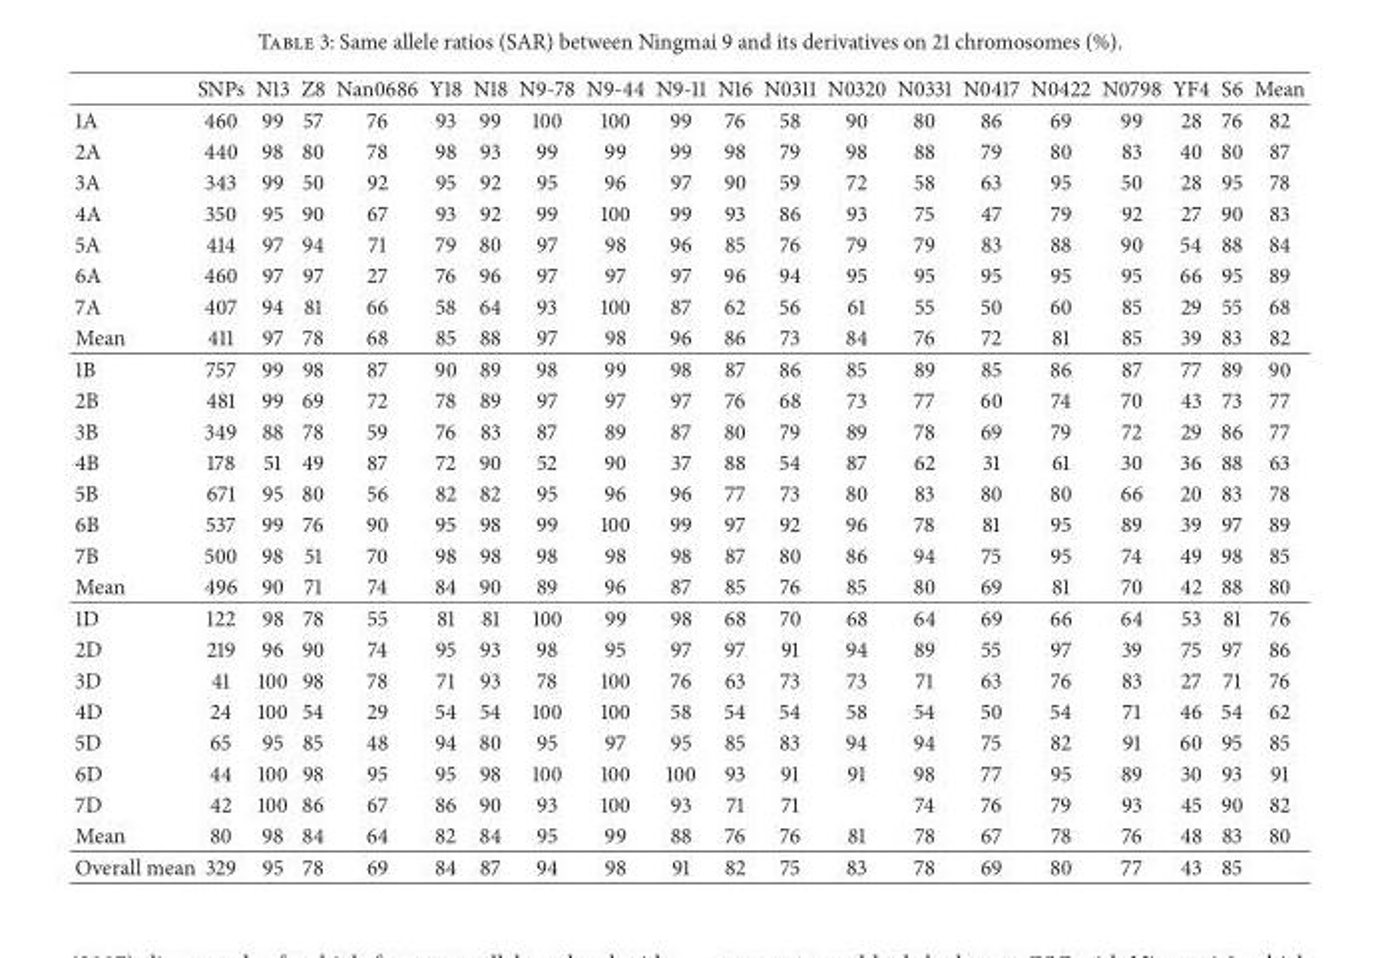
<table><thead><tr><td></td><td>SNPs</td><td>N13</td><td>Z8</td><td>Nan0686</td><td>Y18</td><td>N18</td><td>N9-78</td><td>N9-44</td><td>N9-11</td><td>N16</td><td>N0311</td><td>N0320</td><td>N0331</td><td>N0417</td><td>N0422</td><td>N0798</td><td>YF4</td><td>S6</td><td>Mean</td></tr></thead><tbody><tr><td>1A</td><td>460</td><td>99</td><td>57</td><td>76</td><td>93</td><td>99</td><td>100</td><td>100</td><td>99</td><td>76</td><td>58</td><td>90</td><td>80</td><td>86</td><td>69</td><td>99</td><td>28</td><td>76</td><td>82</td></tr><tr><td>2A</td><td>440</td><td>98</td><td>80</td><td>78</td><td>98</td><td>93</td><td>99</td><td>99</td><td>99</td><td>98</td><td>79</td><td>98</td><td>88</td><td>79</td><td>80</td><td>83</td><td>40</td><td>80</td><td>87</td></tr><tr><td>3A</td><td>343</td><td>99</td><td>50</td><td>92</td><td>95</td><td>92</td><td>95</td><td>96</td><td>97</td><td>90</td><td>59</td><td>72</td><td>58</td><td>63</td><td>95</td><td>50</td><td>28</td><td>95</td><td>78</td></tr><tr><td>4A</td><td>350</td><td>95</td><td>90</td><td>67</td><td>93</td><td>92</td><td>99</td><td>100</td><td>99</td><td>93</td><td>86</td><td>93</td><td>75</td><td>47</td><td>79</td><td>92</td><td>27</td><td>90</td><td>83</td></tr><tr><td>5A</td><td>414</td><td>97</td><td>94</td><td>71</td><td>79</td><td>80</td><td>97</td><td>98</td><td>96</td><td>85</td><td>76</td><td>79</td><td>79</td><td>83</td><td>88</td><td>90</td><td>54</td><td>88</td><td>84</td></tr><tr><td>6A</td><td>460</td><td>97</td><td>97</td><td>27</td><td>76</td><td>96</td><td>97</td><td>97</td><td>97</td><td>96</td><td>94</td><td>95</td><td>95</td><td>95</td><td>95</td><td>95</td><td>66</td><td>95</td><td>89</td></tr><tr><td>7A</td><td>407</td><td>94</td><td>81</td><td>66</td><td>58</td><td>64</td><td>93</td><td>100</td><td>87</td><td>62</td><td>56</td><td>61</td><td>55</td><td>50</td><td>60</td><td>85</td><td>29</td><td>55</td><td>68</td></tr><tr><td>Mean</td><td>411</td><td>97</td><td>78</td><td>68</td><td>85</td><td>88</td><td>97</td><td>98</td><td>96</td><td>86</td><td>73</td><td>84</td><td>76</td><td>72</td><td>81</td><td>85</td><td>39</td><td>83</td><td>82</td></tr><tr><td>1B</td><td>757</td><td>99</td><td>98</td><td>87</td><td>90</td><td>89</td><td>98</td><td>99</td><td>98</td><td>87</td><td>86</td><td>85</td><td>89</td><td>85</td><td>86</td><td>87</td><td>77</td><td>89</td><td>90</td></tr><tr><td>2B</td><td>481</td><td>99</td><td>69</td><td>72</td><td>78</td><td>89</td><td>97</td><td>97</td><td>97</td><td>76</td><td>68</td><td>73</td><td>77</td><td>60</td><td>74</td><td>70</td><td>43</td><td>73</td><td>77</td></tr><tr><td>3B</td><td>349</td><td>88</td><td>78</td><td>59</td><td>76</td><td>83</td><td>87</td><td>89</td><td>87</td><td>80</td><td>79</td><td>89</td><td>78</td><td>69</td><td>79</td><td>72</td><td>29</td><td>86</td><td>77</td></tr><tr><td>4B</td><td>178</td><td>51</td><td>49</td><td>87</td><td>72</td><td>90</td><td>52</td><td>90</td><td>37</td><td>88</td><td>54</td><td>87</td><td>62</td><td>31</td><td>61</td><td>30</td><td>36</td><td>88</td><td>63</td></tr><tr><td>5B</td><td>671</td><td>95</td><td>80</td><td>56</td><td>82</td><td>82</td><td>95</td><td>96</td><td>96</td><td>77</td><td>73</td><td>80</td><td>83</td><td>80</td><td>80</td><td>66</td><td>20</td><td>83</td><td>78</td></tr><tr><td>6B</td><td>537</td><td>99</td><td>76</td><td>90</td><td>95</td><td>98</td><td>99</td><td>100</td><td>99</td><td>97</td><td>92</td><td>96</td><td>78</td><td>81</td><td>95</td><td>89</td><td>39</td><td>97</td><td>89</td></tr><tr><td>7B</td><td>500</td><td>98</td><td>51</td><td>70</td><td>98</td><td>98</td><td>98</td><td>98</td><td>98</td><td>87</td><td>80</td><td>86</td><td>94</td><td>75</td><td>95</td><td>74</td><td>49</td><td>98</td><td>85</td></tr><tr><td>Mean</td><td>496</td><td>90</td><td>71</td><td>74</td><td>84</td><td>90</td><td>89</td><td>96</td><td>87</td><td>85</td><td>76</td><td>85</td><td>80</td><td>69</td><td>81</td><td>70</td><td>42</td><td>88</td><td>80</td></tr><tr><td>1D</td><td>122</td><td>98</td><td>78</td><td>55</td><td>81</td><td>81</td><td>100</td><td>99</td><td>98</td><td>68</td><td>70</td><td>68</td><td>64</td><td>69</td><td>66</td><td>64</td><td>53</td><td>81</td><td>76</td></tr><tr><td>2D</td><td>219</td><td>96</td><td>90</td><td>74</td><td>95</td><td>93</td><td>98</td><td>95</td><td>97</td><td>97</td><td>91</td><td>94</td><td>89</td><td>55</td><td>97</td><td>39</td><td>75</td><td>97</td><td>86</td></tr><tr><td>3D</td><td>41</td><td>100</td><td>98</td><td>78</td><td>71</td><td>93</td><td>78</td><td>100</td><td>76</td><td>63</td><td>73</td><td>73</td><td>71</td><td>63</td><td>76</td><td>83</td><td>27</td><td>71</td><td>76</td></tr><tr><td>4D</td><td>24</td><td>100</td><td>54</td><td>29</td><td>54</td><td>54</td><td>100</td><td>100</td><td>58</td><td>54</td><td>54</td><td>58</td><td>54</td><td>50</td><td>54</td><td>71</td><td>46</td><td>54</td><td>62</td></tr><tr><td>5D</td><td>65</td><td>95</td><td>85</td><td>48</td><td>94</td><td>80</td><td>95</td><td>97</td><td>95</td><td>85</td><td>83</td><td>94</td><td>94</td><td>75</td><td>82</td><td>91</td><td>60</td><td>95</td><td>85</td></tr><tr><td>6D</td><td>44</td><td>100</td><td>98</td><td>95</td><td>95</td><td>98</td><td>100</td><td>100</td><td>100</td><td>93</td><td>91</td><td>91</td><td>98</td><td>77</td><td>95</td><td>89</td><td>30</td><td>93</td><td>91</td></tr><tr><td>7D</td><td>42</td><td>100</td><td>86</td><td>67</td><td>86</td><td>90</td><td>93</td><td>100</td><td>93</td><td>71</td><td>71</td><td></td><td>74</td><td>76</td><td>79</td><td>93</td><td>45</td><td>90</td><td>82</td></tr><tr><td>Mean</td><td>80</td><td>98</td><td>84</td><td>64</td><td>82</td><td>84</td><td>95</td><td>99</td><td>88</td><td>76</td><td>76</td><td>81</td><td>78</td><td>67</td><td>78</td><td>76</td><td>48</td><td>83</td><td>80</td></tr><tr><td>Overall mean</td><td>329</td><td>95</td><td>78</td><td>69</td><td>84</td><td>87</td><td>94</td><td>98</td><td>91</td><td>82</td><td>75</td><td>83</td><td>78</td><td>69</td><td>80</td><td>77</td><td>43</td><td>85</td><td></td></tr></tbody></table>